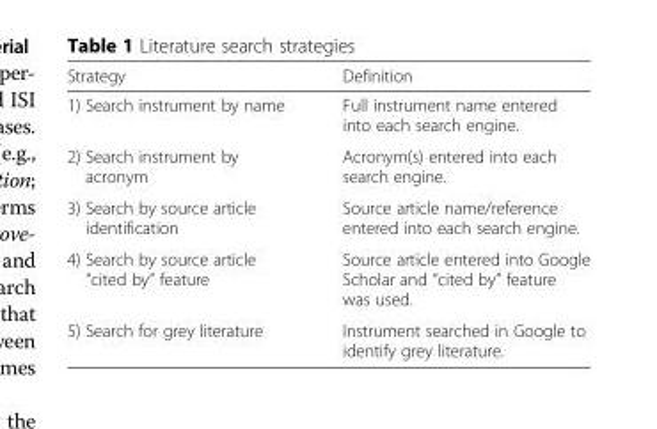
<table><thead><tr><td>Strategy</td><td>Definition</td></tr></thead><tbody><tr><td>1) Search instrument by name</td><td>Full instrument name entered into each search engine.</td></tr><tr><td>2) Search instrument by acronym</td><td>Acronym(s) entered into each search engine.</td></tr><tr><td>3) Search by source article identification</td><td>Source article name/reference entered into each search engine.</td></tr><tr><td>4) Search by source article “cited by” feature</td><td>Source article entered into Google Scholar and “cited by” feature was used.</td></tr><tr><td>5) Search for grey literature</td><td>Instrument searched in Google to identify grey literature.</td></tr></tbody></table>